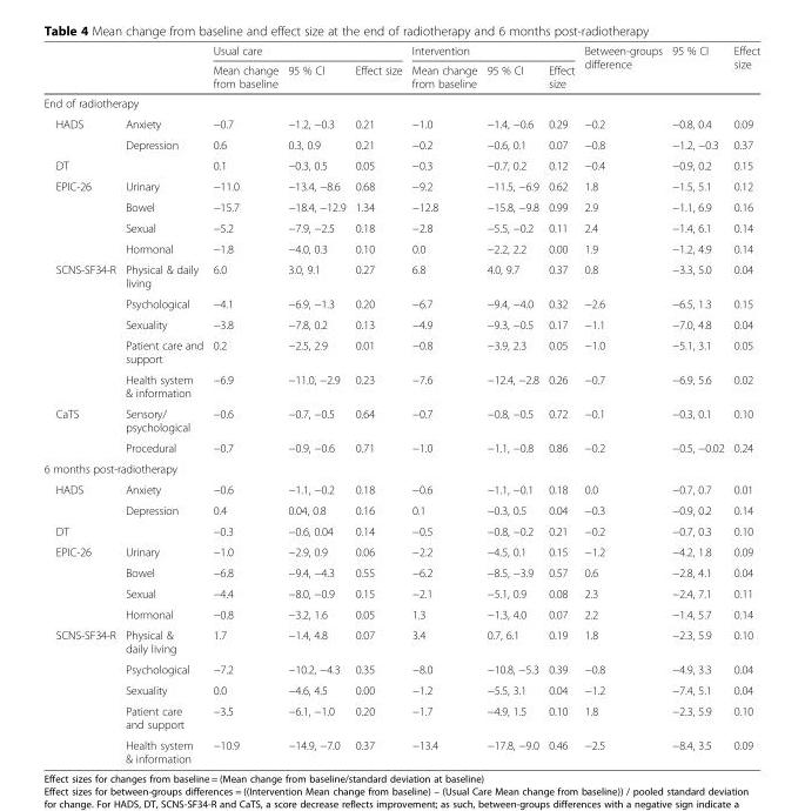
<table><thead><tr><td rowspan="2"></td><td rowspan="2"></td><td colspan="3">Usual care</td><td colspan="3">Intervention</td><td rowspan="2">Between-groups difference</td><td rowspan="2">95 % CI</td><td rowspan="2">Effect size</td></tr><tr><td>Mean change from baseline</td><td>95 % CI</td><td>Effect size</td><td>Mean change from baseline</td><td>95 % CI</td><td>Effect size</td></tr></thead><tbody><tr><td colspan="11">End of radiotherapy</td></tr><tr><td rowspan="2">HADS</td><td>Anxiety</td><td>−0.7</td><td>−1.2, −0.3</td><td>0.21</td><td>−1.0</td><td>−1.4, −0.6</td><td>0.29</td><td>−0.2</td><td>−0.8, 0.4</td><td>0.09</td></tr><tr><td>Depression</td><td>0.6</td><td>0.3, 0.9</td><td>0.21</td><td>−0.2</td><td>−0.6, 0.1</td><td>0.07</td><td>−0.8</td><td>−1.2, −0.3</td><td>0.37</td></tr><tr><td>DT</td><td></td><td>0.1</td><td>−0.3, 0.5</td><td>0.05</td><td>−0.3</td><td>−0.7, 0.2</td><td>0.12</td><td>−0.4</td><td>−0.9, 0.2</td><td>0.15</td></tr><tr><td rowspan="4">EPIC-26</td><td>Urinary</td><td>−11.0</td><td>−13.4, −8.6</td><td>0.68</td><td>−9.2</td><td>−11.5, −6.9</td><td>0.62</td><td>1.8</td><td>−1.5, 5.1</td><td>0.12</td></tr><tr><td>Bowel</td><td>−15.7</td><td>−18.4, −12.9</td><td>1.34</td><td>−12.8</td><td>−15.8, −9.8</td><td>0.99</td><td>2.9</td><td>−1.1, 6.9</td><td>0.16</td></tr><tr><td>Sexual</td><td>−5.2</td><td>−7.9, −2.5</td><td>0.18</td><td>−2.8</td><td>−5.5, −0.2</td><td>0.11</td><td>2.4</td><td>−1.4, 6.1</td><td>0.14</td></tr><tr><td>Hormonal</td><td>−1.8</td><td>−4.0, 0.3</td><td>0.10</td><td>0.0</td><td>−2.2, 2.2</td><td>0.00</td><td>1.9</td><td>−1.2, 4.9</td><td>0.14</td></tr><tr><td rowspan="5">SCNS-SF34-R</td><td>Physical &amp; daily living</td><td>6.0</td><td>3.0, 9.1</td><td>0.27</td><td>6.8</td><td>4.0, 9.7</td><td>0.37</td><td>0.8</td><td>−3.3, 5.0</td><td>0.04</td></tr><tr><td>Psychological</td><td>−4.1</td><td>−6.9, −1.3</td><td>0.20</td><td>−6.7</td><td>−9.4, −4.0</td><td>0.32</td><td>−2.6</td><td>−6.5, 1.3</td><td>0.15</td></tr><tr><td>Sexuality</td><td>−3.8</td><td>−7.8, 0.2</td><td>0.13</td><td>−4.9</td><td>−9.3, −0.5</td><td>0.17</td><td>−1.1</td><td>−7.0, 4.8</td><td>0.04</td></tr><tr><td>Patient care and support</td><td>0.2</td><td>−2.5, 2.9</td><td>0.01</td><td>−0.8</td><td>−3.9, 2.3</td><td>0.05</td><td>−1.0</td><td>−5.1, 3.1</td><td>0.05</td></tr><tr><td>Health system &amp; information</td><td>−6.9</td><td>−11.0, −2.9</td><td>0.23</td><td>−7.6</td><td>−12.4, −2.8</td><td>0.26</td><td>−0.7</td><td>−6.9, 5.6</td><td>0.02</td></tr><tr><td rowspan="2">CaTS</td><td>Sensory/ psychological</td><td>−0.6</td><td>−0.7, −0.5</td><td>0.64</td><td>−0.7</td><td>−0.8, −0.5</td><td>0.72</td><td>−0.1</td><td>−0.3, 0.1</td><td>0.10</td></tr><tr><td>Procedural</td><td>−0.7</td><td>−0.9, −0.6</td><td>0.71</td><td>−1.0</td><td>−1.1, −0.8</td><td>0.86</td><td>−0.2</td><td>−0.5, −0.02</td><td>0.24</td></tr><tr><td colspan="11">6 months post-radiotherapy</td></tr><tr><td rowspan="2">HADS</td><td>Anxiety</td><td>−0.6</td><td>−1.1, −0.2</td><td>0.18</td><td>−0.6</td><td>−1.1, −0.1</td><td>0.18</td><td>0.0</td><td>−0.7, 0.7</td><td>0.01</td></tr><tr><td>Depression</td><td>0.4</td><td>0.04, 0.8</td><td>0.16</td><td>0.1</td><td>−0.3, 0.5</td><td>0.04</td><td>−0.3</td><td>−0.9, 0.2</td><td>0.14</td></tr><tr><td>DT</td><td></td><td>−0.3</td><td>−0.6, 0.04</td><td>0.14</td><td>−0.5</td><td>−0.8, −0.2</td><td>0.21</td><td>−0.2</td><td>−0.7, 0.3</td><td>0.10</td></tr><tr><td rowspan="4">EPIC-26</td><td>Urinary</td><td>−1.0</td><td>−2.9, 0.9</td><td>0.06</td><td>−2.2</td><td>−4.5, 0.1</td><td>0.15</td><td>−1.2</td><td>−4.2, 1.8</td><td>0.09</td></tr><tr><td>Bowel</td><td>−6.8</td><td>−9.4, −4.3</td><td>0.55</td><td>−6.2</td><td>−8.5, −3.9</td><td>0.57</td><td>0.6</td><td>−2.8, 4.1</td><td>0.04</td></tr><tr><td>Sexual</td><td>−4.4</td><td>−8.0, −0.9</td><td>0.15</td><td>−2.1</td><td>−5.1, 0.9</td><td>0.08</td><td>2.3</td><td>−2.4, 7.1</td><td>0.11</td></tr><tr><td>Hormonal</td><td>−0.8</td><td>−3.2, 1.6</td><td>0.05</td><td>1.3</td><td>−1.3, 4.0</td><td>0.07</td><td>2.2</td><td>−1.4, 5.7</td><td>0.14</td></tr><tr><td rowspan="5">SCNS-SF34-R</td><td>Physical &amp; daily living</td><td>1.7</td><td>−1.4, 4.8</td><td>0.07</td><td>3.4</td><td>0.7, 6.1</td><td>0.19</td><td>1.8</td><td>−2.3, 5.9</td><td>0.10</td></tr><tr><td>Psychological</td><td>−7.2</td><td>−10.2, −4.3</td><td>0.35</td><td>−8.0</td><td>−10.8, −5.3</td><td>0.39</td><td>−0.8</td><td>−4.9, 3.3</td><td>0.04</td></tr><tr><td>Sexuality</td><td>0.0</td><td>−4.6, 4.5</td><td>0.00</td><td>−1.2</td><td>−5.5, 3.1</td><td>0.04</td><td>−1.2</td><td>−7.4, 5.1</td><td>0.04</td></tr><tr><td>Patient care and support</td><td>−3.5</td><td>−6.1, −1.0</td><td>0.20</td><td>−1.7</td><td>−4.9, 1.5</td><td>0.10</td><td>1.8</td><td>−2.3, 5.9</td><td>0.10</td></tr><tr><td>Health system &amp; information</td><td>−10.9</td><td>−14.9, −7.0</td><td>0.37</td><td>−13.4</td><td>−17.8, −9.0</td><td>0.46</td><td>−2.5</td><td>−8.4, 3.5</td><td>0.09</td></tr></tbody></table>